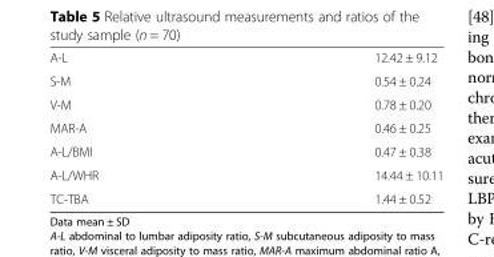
<table><tbody><tr><td>A-L</td><td>12.42 ± 9.12</td></tr><tr><td>S-M</td><td>0.54 ± 0.24</td></tr><tr><td>V-M</td><td>0.78 ± 0.20</td></tr><tr><td>MAR-A</td><td>0.46 ± 0.25</td></tr><tr><td>A-L/BMI</td><td>0.47 ± 0.38</td></tr><tr><td>A-L/WHR</td><td>14.44 ± 10.11</td></tr><tr><td>TC-TBA</td><td>1.44 ± 0.52</td></tr></tbody></table>